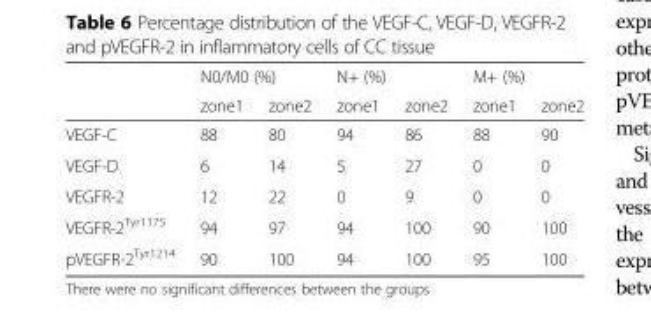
<table><thead><tr><td rowspan="2"></td><td colspan="2">N0/M0 (%)</td><td colspan="2">N+ (%)</td><td colspan="2">M+ (%)</td></tr><tr><td>zone1</td><td>zone2</td><td>zone1</td><td>zone2</td><td>zone1</td><td>zone2</td></tr></thead><tbody><tr><td>VEGF-C</td><td>88</td><td>80</td><td>94</td><td>86</td><td>88</td><td>90</td></tr><tr><td>VEGF-D</td><td>6</td><td>14</td><td>5</td><td>27</td><td>0</td><td>0</td></tr><tr><td>VEGFR-2</td><td>12</td><td>22</td><td>0</td><td>9</td><td>0</td><td>0</td></tr><tr><td>VEGFR-2<sup>Tyr1175</sup></td><td>94</td><td>97</td><td>94</td><td>100</td><td>90</td><td>100</td></tr><tr><td>pVEGFR-2<sup>Tyr1214</sup></td><td>90</td><td>100</td><td>94</td><td>100</td><td>95</td><td>100</td></tr></tbody></table>